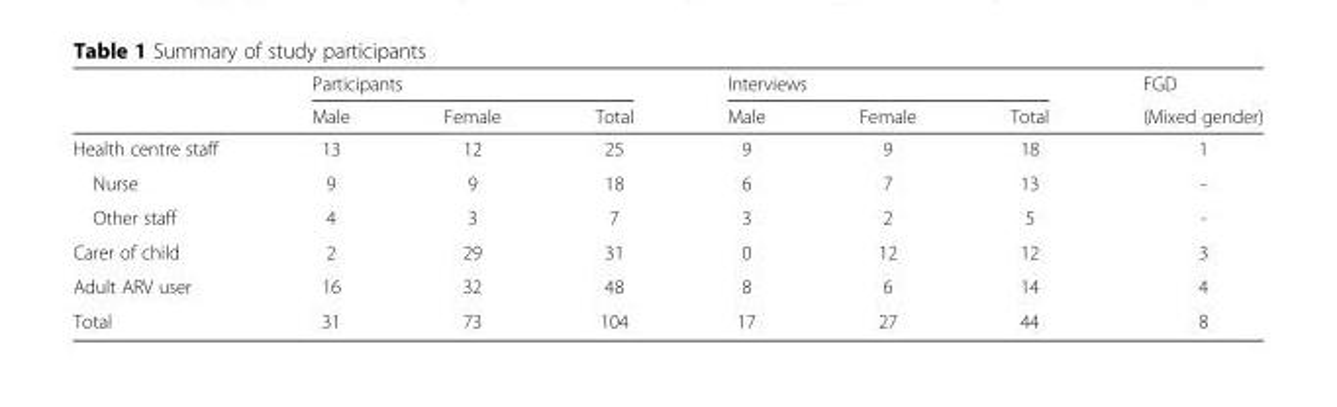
<table><thead><tr><td rowspan="2"></td><td colspan="3">Participants</td><td colspan="3">Interviews</td><td rowspan="2">FGD (Mixed gender)</td></tr><tr><td>Male</td><td>Female</td><td>Total</td><td>Male</td><td>Female</td><td>Total</td></tr></thead><tbody><tr><td>Health centre staff</td><td>13</td><td>12</td><td>25</td><td>9</td><td>9</td><td>18</td><td>1</td></tr><tr><td>Nurse</td><td>9</td><td>9</td><td>18</td><td>6</td><td>7</td><td>13</td><td>-</td></tr><tr><td>Other staff</td><td>4</td><td>3</td><td>7</td><td>3</td><td>2</td><td>5</td><td>-</td></tr><tr><td>Carer of child</td><td>2</td><td>29</td><td>31</td><td>0</td><td>12</td><td>12</td><td>3</td></tr><tr><td>Adult ARV user</td><td>16</td><td>32</td><td>48</td><td>8</td><td>6</td><td>14</td><td>4</td></tr><tr><td>Total</td><td>31</td><td>73</td><td>104</td><td>17</td><td>27</td><td>44</td><td>8</td></tr></tbody></table>